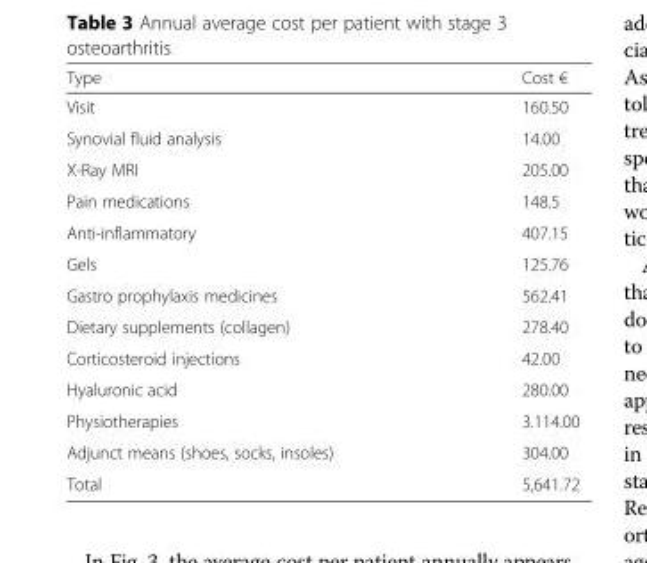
<table><thead><tr><td>Type</td><td>Cost €</td></tr></thead><tbody><tr><td>Visit</td><td>160.50</td></tr><tr><td>Synovial fluid analysis</td><td>14.00</td></tr><tr><td>X-Ray MRI</td><td>205.00</td></tr><tr><td>Pain medications</td><td>148.5</td></tr><tr><td>Anti-inflammatory</td><td>407.15</td></tr><tr><td>Gels</td><td>125.76</td></tr><tr><td>Gastro prophylaxis medicines</td><td>562.41</td></tr><tr><td>Dietary supplements (collagen)</td><td>278.40</td></tr><tr><td>Corticosteroid injections</td><td>42.00</td></tr><tr><td>Hyaluronic acid</td><td>280.00</td></tr><tr><td>Physiotherapies</td><td>3.114.00</td></tr><tr><td>Adjunct means (shoes, socks, insoles)</td><td>304.00</td></tr><tr><td>Total</td><td>5,641.72</td></tr></tbody></table>